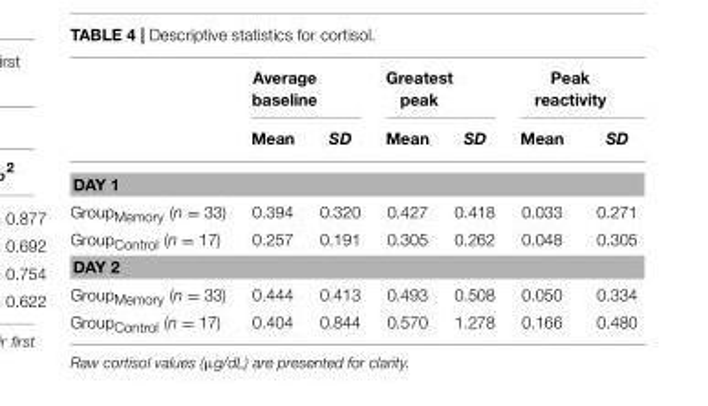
<table><thead><tr><td rowspan="2"></td><td colspan="2">Average baseline</td><td colspan="2">Greatest peak</td><td colspan="2">Peak reactivity</td></tr><tr><td>Mean</td><td>SD</td><td>Mean</td><td>SD</td><td>Mean</td><td>SD</td></tr></thead><tbody><tr><td colspan="7">DAY 1</td></tr><tr><td>Group<sub>Memory</sub> (n = 33)</td><td>0.394</td><td>0.320</td><td>0.427</td><td>0.418</td><td>0.033</td><td>0.271</td></tr><tr><td>Group<sub>Control</sub> (n = 17)</td><td>0.257</td><td>0.191</td><td>0.305</td><td>0.262</td><td>0.048</td><td>0.305</td></tr><tr><td colspan="7">DAY 2</td></tr><tr><td>Group<sub>Memory</sub> (n = 33)</td><td>0.444</td><td>0.413</td><td>0.493</td><td>0.508</td><td>0.050</td><td>0.334</td></tr><tr><td>Group<sub>Control</sub> (n = 17)</td><td>0.404</td><td>0.844</td><td>0.570</td><td>1.278</td><td>0.166</td><td>0.480</td></tr></tbody></table>